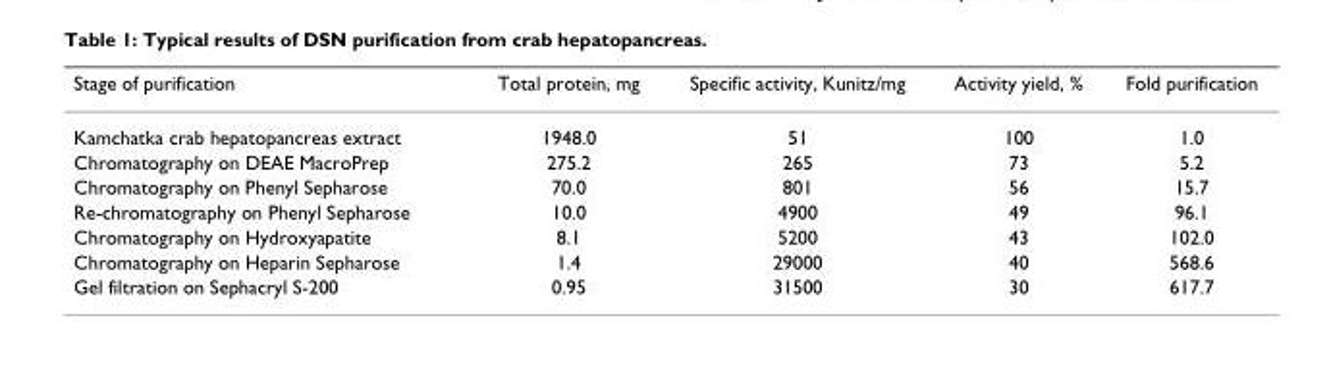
<table><thead><tr><td>Stage of purification</td><td>Total protein, mg</td><td>Specific activity, Kunitz/mg</td><td>Activity yield, %</td><td>Fold purification</td></tr></thead><tbody><tr><td>Kamchatka crab hepatopancreas extract</td><td>1948.0</td><td>51</td><td>100</td><td>1.0</td></tr><tr><td>Chromatography on DEAE MacroPrep</td><td>275.2</td><td>265</td><td>73</td><td>5.2</td></tr><tr><td>Chromatography on Phenyl Sepharose</td><td>70.0</td><td>801</td><td>56</td><td>15.7</td></tr><tr><td>Re-chromatography on Phenyl Sepharose</td><td>10.0</td><td>4900</td><td>49</td><td>96.1</td></tr><tr><td>Chromatography on Hydroxyapatite</td><td>8.1</td><td>5200</td><td>43</td><td>102.0</td></tr><tr><td>Chromatography on Heparin Sepharose</td><td>1.4</td><td>29000</td><td>40</td><td>568.6</td></tr><tr><td>Gel filtration on Sephacryl S-200</td><td>0.95</td><td>31500</td><td>30</td><td>617.7</td></tr></tbody></table>